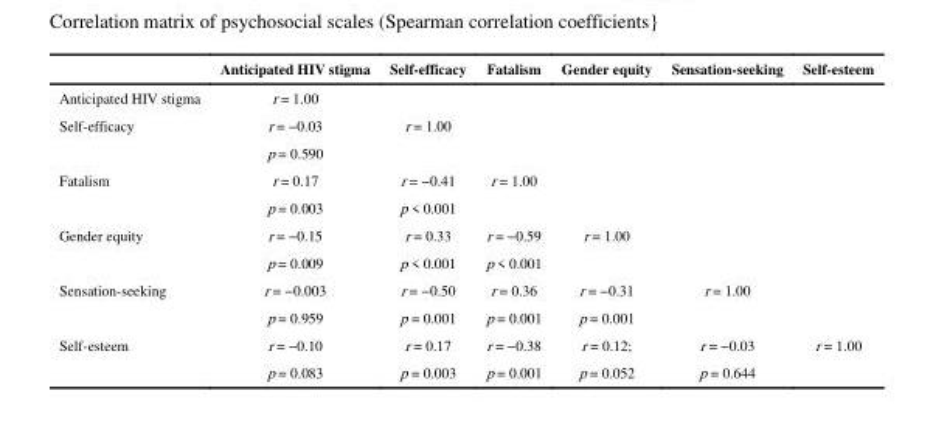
<table><thead><tr><td></td><td>Anticipated HIV stigma</td><td>Self-efficacy</td><td>Fatalism</td><td>Gender equity</td><td>Sensation-seeking</td><td>Self-esteem</td></tr></thead><tbody><tr><td>Anticipated HIV stigma</td><td>r = 1.00</td><td></td><td></td><td></td><td></td><td></td></tr><tr><td rowspan="2">Self-efficacy</td><td>r = −0.03</td><td>r = 1.00</td><td></td><td></td><td></td><td></td></tr><tr><td>p = 0.590</td><td></td><td></td><td></td><td></td><td></td></tr><tr><td rowspan="2">Fatalism</td><td>r = 0.17</td><td>r = −0.41</td><td>r = 1.00</td><td></td><td></td><td></td></tr><tr><td>p = 0.003</td><td>p &lt; 0.001</td><td></td><td></td><td></td><td></td></tr><tr><td rowspan="2">Gender equity</td><td>r = −0.15</td><td>r = 0.33</td><td>r = −0.59</td><td>r = 1.00</td><td></td><td></td></tr><tr><td>p = 0.009</td><td>p &lt; 0.001</td><td>p &lt; 0.001</td><td></td><td></td><td></td></tr><tr><td rowspan="2">Sensation-seeking</td><td>r = −0.003</td><td>r = −0.50</td><td>r = 0.36</td><td>r = −0.31</td><td>r = 1.00</td><td></td></tr><tr><td>p = 0.959</td><td>p = 0.001</td><td>p = 0.001</td><td>p = 0.001</td><td></td><td></td></tr><tr><td rowspan="2">Self-esteem</td><td>r = −0.10</td><td>r = 0.17</td><td>r = −0.38</td><td>r = 0.12;</td><td>r = −0.03</td><td>r = 1.00</td></tr><tr><td>p = 0.083</td><td>p = 0.003</td><td>p = 0.001</td><td>p = 0.052</td><td>p = 0.644</td><td></td></tr></tbody></table>